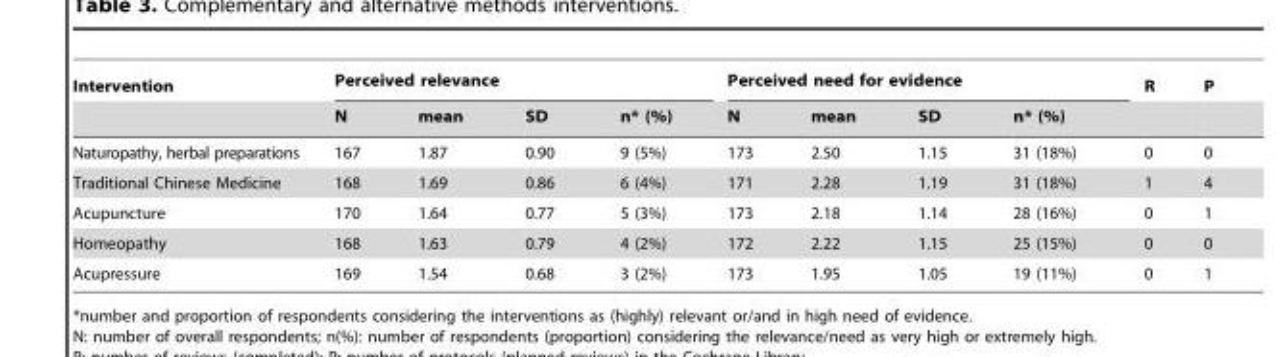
<table><thead><tr><td rowspan="2">Intervention</td><td colspan="4">Perceived relevance</td><td colspan="4">Perceived need for evidence</td><td rowspan="2">R</td><td rowspan="2">P</td></tr><tr><td>N</td><td>mean</td><td>SD</td><td>n* (%)</td><td>N</td><td>mean</td><td>SD</td><td>n* (%)</td></tr></thead><tbody><tr><td>Naturopathy, herbal preparations</td><td>167</td><td>1.87</td><td>0.90</td><td>9 (5%)</td><td>173</td><td>2.50</td><td>1.15</td><td>31 (18%)</td><td>0</td><td>0</td></tr><tr><td>Traditional Chinese Medicine</td><td>168</td><td>1.69</td><td>0.86</td><td>6 (4%)</td><td>171</td><td>2.28</td><td>1.19</td><td>31 (18%)</td><td>1</td><td>4</td></tr><tr><td>Acupuncture</td><td>170</td><td>1.64</td><td>0.77</td><td>5 (3%)</td><td>173</td><td>2.18</td><td>1.14</td><td>28 (16%)</td><td>0</td><td>1</td></tr><tr><td>Homeopathy</td><td>168</td><td>1.63</td><td>0.79</td><td>4 (2%)</td><td>172</td><td>2.22</td><td>1.15</td><td>25 (15%)</td><td>0</td><td>0</td></tr><tr><td>Acupressure</td><td>169</td><td>1.54</td><td>0.68</td><td>3 (2%)</td><td>173</td><td>1.95</td><td>1.05</td><td>19 (11%)</td><td>0</td><td>1</td></tr></tbody></table>